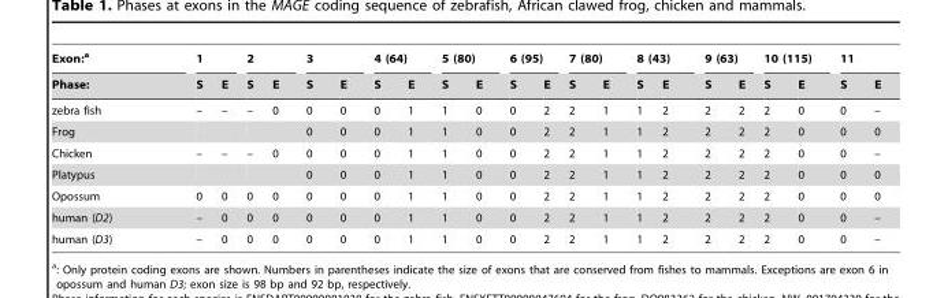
<table><thead><tr><td rowspan="2">Exon:<sup>a</sup> Phase:</td><td colspan="2">1</td><td colspan="2">2</td><td colspan="2">3</td><td colspan="2">4 (64)</td><td colspan="2">5 (80)</td><td colspan="2">6 (95)</td><td colspan="2">7 (80)</td><td colspan="2">8 (43)</td><td colspan="2">9 (63)</td><td colspan="2">10 (115)</td><td colspan="2">11</td></tr><tr><td>S</td><td>E</td><td>S</td><td>E</td><td>S</td><td>E</td><td>S</td><td>E</td><td>S</td><td>E</td><td>S</td><td>E</td><td>S</td><td>E</td><td>S</td><td>E</td><td>S</td><td>E</td><td>S</td><td>E</td><td>S</td><td>E</td></tr></thead><tbody><tr><td>zebra fish</td><td>–</td><td>–</td><td>–</td><td>0</td><td>0</td><td>0</td><td>0</td><td>1</td><td>1</td><td>0</td><td>0</td><td>2</td><td>2</td><td>1</td><td>1</td><td>2</td><td>2</td><td>2</td><td>2</td><td>0</td><td>0</td><td>–</td></tr><tr><td>Frog</td><td></td><td></td><td></td><td></td><td>0</td><td>0</td><td>0</td><td>1</td><td>1</td><td>0</td><td>0</td><td>2</td><td>2</td><td>1</td><td>1</td><td>2</td><td>2</td><td>2</td><td>2</td><td>0</td><td>0</td><td>0</td></tr><tr><td>Chicken</td><td>–</td><td>–</td><td>–</td><td>0</td><td>0</td><td>0</td><td>0</td><td>1</td><td>1</td><td>0</td><td>0</td><td>2</td><td>2</td><td>1</td><td>1</td><td>2</td><td>2</td><td>2</td><td>2</td><td>0</td><td>0</td><td>–</td></tr><tr><td>Platypus</td><td></td><td></td><td></td><td></td><td>0</td><td>0</td><td>0</td><td>1</td><td>1</td><td>0</td><td>0</td><td>2</td><td>2</td><td>1</td><td>1</td><td>2</td><td>2</td><td>2</td><td>2</td><td>0</td><td>0</td><td>0</td></tr><tr><td>Opossum</td><td>0</td><td>0</td><td>0</td><td>0</td><td>0</td><td>0</td><td>0</td><td>1</td><td>1</td><td>0</td><td>0</td><td>2</td><td>2</td><td>1</td><td>1</td><td>2</td><td>2</td><td>2</td><td>2</td><td>0</td><td>0</td><td>0</td></tr><tr><td>human (D2)</td><td>–</td><td>0</td><td>0</td><td>0</td><td>0</td><td>0</td><td>0</td><td>1</td><td>1</td><td>0</td><td>0</td><td>2</td><td>2</td><td>1</td><td>1</td><td>2</td><td>2</td><td>2</td><td>2</td><td>0</td><td>0</td><td>–</td></tr><tr><td>human (D3)</td><td>–</td><td>0</td><td>0</td><td>0</td><td>0</td><td>0</td><td>0</td><td>1</td><td>1</td><td>0</td><td>0</td><td>2</td><td>2</td><td>1</td><td>1</td><td>2</td><td>2</td><td>2</td><td>2</td><td>0</td><td>0</td><td>–</td></tr></tbody></table>